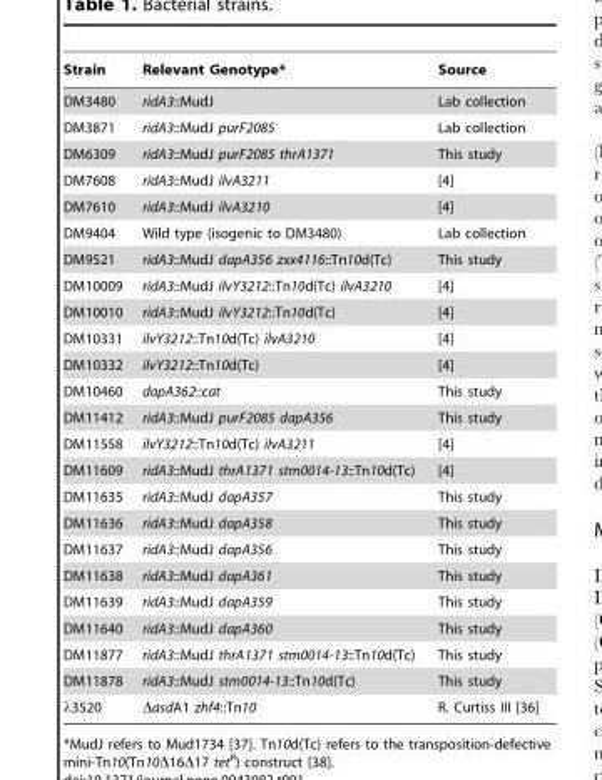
<table><thead><tr><td>Strain</td><td>Relevant Genotype*</td><td>Source</td></tr></thead><tbody><tr><td>DM3480</td><td>ridA3::MudJ</td><td>Lab collection</td></tr><tr><td>DM3871</td><td>ridA3::MudJ purF2085</td><td>Lab collection</td></tr><tr><td>DM6309</td><td>ridA3::MudJ purF2085 thrA1371</td><td>This study</td></tr><tr><td>DM7608</td><td>ridA3::MudJ ilvA3211</td><td>[4]</td></tr><tr><td>DM7610</td><td>ridA3::MudJ ilvA3210</td><td>[4]</td></tr><tr><td>DM9404</td><td>Wild type (isogenic to DM3480)</td><td>Lab collection</td></tr><tr><td>DM9521</td><td>ridA3::MudJ dapA356 zxx4116::Tn10d(Tc)</td><td>This study</td></tr><tr><td>DM10009</td><td>ridA3::MudJ ilvY3212::Tn10d(Tc) ilvA3210</td><td>[4]</td></tr><tr><td>DM10010</td><td>ridA3::MudJ ilvY3212::Tn10d(Tc)</td><td>[4]</td></tr><tr><td>DM10331</td><td>ilvY3212::Tn10d(Tc) ilvA3210</td><td>[4]</td></tr><tr><td>DM10332</td><td>ilvY3212::Tn10d(Tc)</td><td>[4]</td></tr><tr><td>DM10460</td><td>dapA362::cat</td><td>This study</td></tr><tr><td>DM11412</td><td>ridA3::MudJ purF2085 dapA356</td><td>This study</td></tr><tr><td>DM11558</td><td>ilvY3212::Tn10d(Tc) ilvA3211</td><td>[4]</td></tr><tr><td>DM11609</td><td>ridA3::MudJ thrA1371 stm0014-13::Tn10d(Tc)</td><td>[4]</td></tr><tr><td>DM11635</td><td>ridA3::MudJ dapA357</td><td>This study</td></tr><tr><td>DM11636</td><td>ridA3::MudJ dapA358</td><td>This study</td></tr><tr><td>DM11637</td><td>ridA3::MudJ dapA356</td><td>This study</td></tr><tr><td>DM11638</td><td>ridA3::MudJ dapA361</td><td>This study</td></tr><tr><td>DM11639</td><td>ridA3::MudJ dapA359</td><td>This study</td></tr><tr><td>DM11640</td><td>ridA3::MudJ dapA360</td><td>This study</td></tr><tr><td>DM11877</td><td>ridA3::MudJ thrA1371 stm0014-13::Tn10d(Tc)</td><td>This study</td></tr><tr><td>DM11878</td><td>ridA3::MudJ stm0014-13::Tn10d(Tc)</td><td>This study</td></tr><tr><td>λ3520</td><td>ΔasdA1 zhf4::Tn10</td><td>R. Curtiss III [36]</td></tr></tbody></table>